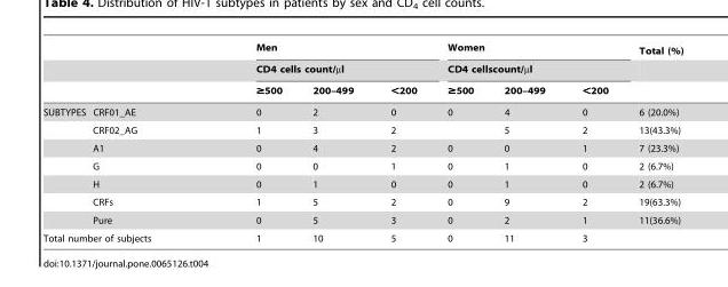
<table><thead><tr><td rowspan="3"></td><td rowspan="3"></td><td rowspan="2" colspan="3">Men CD4 cells count/µl</td><td rowspan="2" colspan="3">Women CD4 cellscount/µl</td><td rowspan="3">Total (%)</td></tr><tr></tr><tr><td>≥500</td><td>200–499</td><td>&lt;200</td><td>≥500</td><td>200–499</td><td>&lt;200</td></tr></thead><tbody><tr><td rowspan="7">SUBTYPES</td><td>CRF01_AE</td><td>0</td><td>2</td><td>0</td><td>0</td><td>4</td><td>0</td><td>6 (20.0%)</td></tr><tr><td>CRF02_AG</td><td>1</td><td>3</td><td>2</td><td></td><td>5</td><td>2</td><td>13(43.3%)</td></tr><tr><td>A1</td><td>0</td><td>4</td><td>2</td><td>0</td><td>0</td><td>1</td><td>7 (23.3%)</td></tr><tr><td>G</td><td>0</td><td>0</td><td>1</td><td>0</td><td>1</td><td>0</td><td>2 (6.7%)</td></tr><tr><td>H</td><td>0</td><td>1</td><td>0</td><td>0</td><td>1</td><td>0</td><td>2 (6.7%)</td></tr><tr><td>CRFs</td><td>1</td><td>5</td><td>2</td><td>0</td><td>9</td><td>2</td><td>19(63.3%)</td></tr><tr><td>Pure</td><td>0</td><td>5</td><td>3</td><td>0</td><td>2</td><td>1</td><td>11(36.6%)</td></tr><tr><td colspan="2">Total number of subjects</td><td>1</td><td>10</td><td>5</td><td>0</td><td>11</td><td>3</td><td></td></tr></tbody></table>